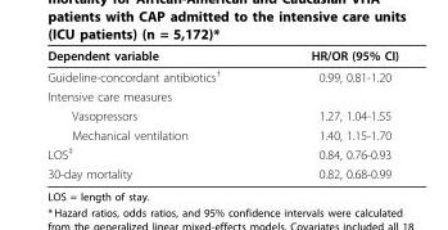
<table><thead><tr><td>Dependent variable</td><td>HR/OR (95% CI)</td></tr></thead><tbody><tr><td>Guideline-concordant antibiotics<sup>†</sup></td><td>0.99, 0.81-1.20</td></tr><tr><td colspan="2">Intensive care measures</td></tr><tr><td>Vasopressors</td><td>1.27, 1.04-1.55</td></tr><tr><td>Mechanical ventilation</td><td>1.40, 1.15-1.70</td></tr><tr><td>LOS<sup>‡</sup></td><td>0.84, 0.76-0.93</td></tr><tr><td>30-day mortality</td><td>0.82, 0.68-0.99</td></tr></tbody></table>